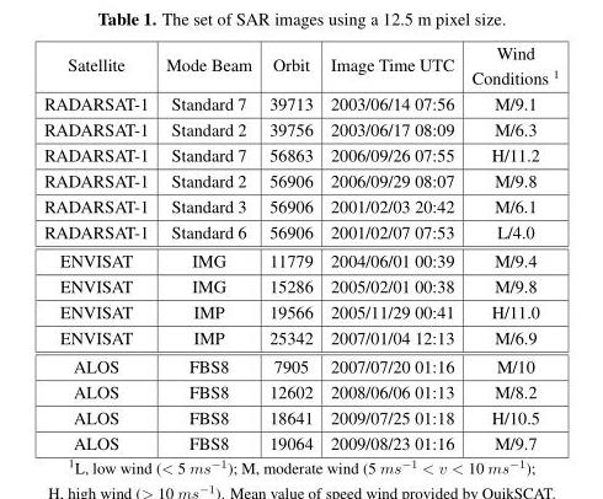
<table><thead><tr><td>Satellite</td><td>Mode Beam</td><td>Orbit</td><td>Image Time UTC</td><td>Wind Conditions <sup>1</sup></td></tr></thead><tbody><tr><td>RADARSAT-1</td><td>Standard 7</td><td>39713</td><td>2003/06/14 07:56</td><td>M/9.1</td></tr><tr><td>RADARSAT-1</td><td>Standard 2</td><td>39756</td><td>2003/06/17 08:09</td><td>M/6.3</td></tr><tr><td>RADARSAT-1</td><td>Standard 7</td><td>56863</td><td>2006/09/26 07:55</td><td>H/11.2</td></tr><tr><td>RADARSAT-1</td><td>Standard 2</td><td>56906</td><td>2006/09/29 08:07</td><td>M/9.8</td></tr><tr><td>RADARSAT-1</td><td>Standard 3</td><td>56906</td><td>2001/02/03 20:42</td><td>M/6.1</td></tr><tr><td>RADARSAT-1</td><td>Standard 6</td><td>56906</td><td>2001/02/07 07:53</td><td>L/4.0</td></tr><tr><td>ENVISAT</td><td>IMG</td><td>11779</td><td>2004/06/01 00:39</td><td>M/9.4</td></tr><tr><td>ENVISAT</td><td>IMG</td><td>15286</td><td>2005/02/01 00:38</td><td>M/9.8</td></tr><tr><td>ENVISAT</td><td>IMP</td><td>19566</td><td>2005/11/29 00:41</td><td>H/11.0</td></tr><tr><td>ENVISAT</td><td>IMP</td><td>25342</td><td>2007/01/04 12:13</td><td>M/6.9</td></tr><tr><td>ALOS</td><td>FBS8</td><td>7905</td><td>2007/07/20 01:16</td><td>M/10</td></tr><tr><td>ALOS</td><td>FBS8</td><td>12602</td><td>2008/06/06 01:13</td><td>M/8.2</td></tr><tr><td>ALOS</td><td>FBS8</td><td>18641</td><td>2009/07/25 01:18</td><td>H/10.5</td></tr><tr><td>ALOS</td><td>FBS8</td><td>19064</td><td>2009/08/23 01:16</td><td>M/9.7</td></tr></tbody></table>